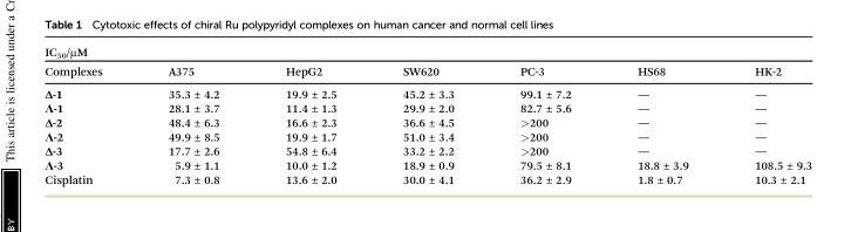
<table><thead><tr><td colspan="7">IC<sub>50</sub>/μM</td></tr><tr><td>Complexes</td><td>A375</td><td>HepG2</td><td>SW620</td><td>PC-3</td><td>HS68</td><td>HK-2</td></tr></thead><tbody><tr><td>Δ-1</td><td>35.3 ± 4.2</td><td>19.9 ± 2.5</td><td>45.2 ± 3.3</td><td>99.1 ± 7.2</td><td>—</td><td>—</td></tr><tr><td>Λ-1</td><td>28.1 ± 3.7</td><td>11.4 ± 1.3</td><td>29.9 ± 2.0</td><td>82.7 ± 5.6</td><td>—</td><td>—</td></tr><tr><td>Δ-2</td><td>48.4 ± 6.3</td><td>16.6 ± 2.3</td><td>36.6 ± 4.5</td><td>&gt;200</td><td>—</td><td>—</td></tr><tr><td>Λ-2</td><td>49.9 ± 8.5</td><td>19.9 ± 1.7</td><td>51.0 ± 3.4</td><td>&gt;200</td><td>—</td><td>—</td></tr><tr><td>Δ-3</td><td>17.7 ± 2.6</td><td>54.8 ± 6.4</td><td>33.2 ± 2.2</td><td>&gt;200</td><td>—</td><td>—</td></tr><tr><td>Λ-3</td><td>5.9 ± 1.1</td><td>10.0 ± 1.2</td><td>18.9 ± 0.9</td><td>79.5 ± 8.1</td><td>18.8 ± 3.9</td><td>108.5 ± 9.3</td></tr><tr><td>Cisplatin</td><td>7.3 ± 0.8</td><td>13.6 ± 2.0</td><td>30.0 ± 4.1</td><td>36.2 ± 2.9</td><td>1.8 ± 0.7</td><td>10.3 ± 2.1</td></tr></tbody></table>